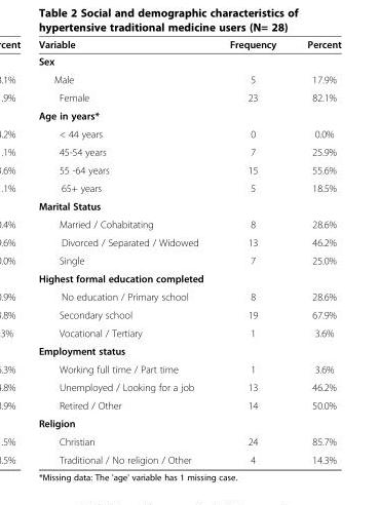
<table><thead><tr><td>Variable</td><td>Frequency</td><td>Percent</td></tr></thead><tbody><tr><td colspan="3">Sex</td></tr><tr><td>Male</td><td>5</td><td>17.9%</td></tr><tr><td>Female</td><td>23</td><td>82.1%</td></tr><tr><td colspan="3">Age in years*</td></tr><tr><td>&lt; 44 years</td><td>0</td><td>0.0%</td></tr><tr><td>45-54 years</td><td>7</td><td>25.9%</td></tr><tr><td>55 -64 years</td><td>15</td><td>55.6%</td></tr><tr><td>65+ years</td><td>5</td><td>18.5%</td></tr><tr><td colspan="3">Marital Status</td></tr><tr><td>Married / Cohabitating</td><td>8</td><td>28.6%</td></tr><tr><td>Divorced / Separated / Widowed</td><td>13</td><td>46.2%</td></tr><tr><td>Single</td><td>7</td><td>25.0%</td></tr><tr><td colspan="3">Highest formal education completed</td></tr><tr><td>No education / Primary school</td><td>8</td><td>28.6%</td></tr><tr><td>Secondary school</td><td>19</td><td>67.9%</td></tr><tr><td>Vocational / Tertiary</td><td>1</td><td>3.6%</td></tr><tr><td colspan="3">Employment status</td></tr><tr><td>Working full time / Part time</td><td>1</td><td>3.6%</td></tr><tr><td>Unemployed / Looking for a job</td><td>13</td><td>46.2%</td></tr><tr><td>Retired / Other</td><td>14</td><td>50.0%</td></tr><tr><td colspan="3">Religion</td></tr><tr><td>Christian</td><td>24</td><td>85.7%</td></tr><tr><td>Traditional / No religion / Other</td><td>4</td><td>14.3%</td></tr></tbody></table>